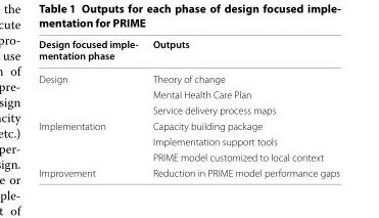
<table><thead><tr><td>Design focused imple‑ mentation phase</td><td>Outputs</td></tr></thead><tbody><tr><td rowspan="3">Design</td><td>Theory of change</td></tr><tr><td>Mental Health Care Plan</td></tr><tr><td>Service delivery process maps</td></tr><tr><td rowspan="3">Implementation</td><td>Capacity building package</td></tr><tr><td>Implementation support tools</td></tr><tr><td>PRIME model customized to local context</td></tr><tr><td>Improvement</td><td>Reduction in PRIME model performance gaps</td></tr></tbody></table>